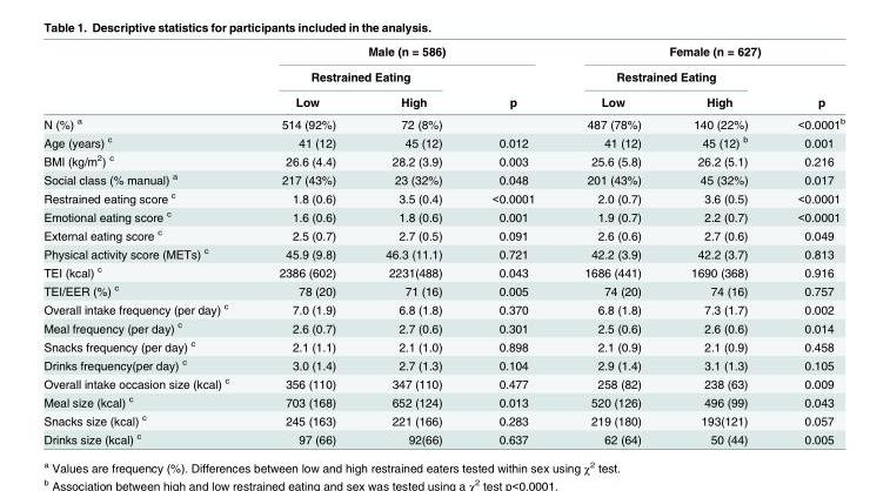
<table><thead><tr><td rowspan="3"></td><td colspan="3">Male (n = 586)</td><td colspan="3">Female (n = 627)</td></tr><tr><td colspan="2">Restrained Eating</td><td rowspan="2">p</td><td colspan="2">Restrained Eating</td><td rowspan="2">p</td></tr><tr><td>Low</td><td>High</td><td>Low</td><td>High</td></tr></thead><tbody><tr><td>N (%) <sup>a</sup></td><td>514 (92%)</td><td>72 (8%)</td><td></td><td>487 (78%)</td><td>140 (22%)</td><td>&lt;0.0001<sup>b</sup></td></tr><tr><td>Age (years) <sup>c</sup></td><td>41 (12)</td><td>45 (12)</td><td>0.012</td><td>41 (12)</td><td>45 (12) <sup>b</sup></td><td>0.001</td></tr><tr><td>BMI (kg/m<sup>2</sup>) <sup>c</sup></td><td>26.6 (4.4)</td><td>28.2 (3.9)</td><td>0.003</td><td>25.6 (5.8)</td><td>26.2 (5.1)</td><td>0.216</td></tr><tr><td>Social class (% manual) <sup>a</sup></td><td>217 (43%)</td><td>23 (32%)</td><td>0.048</td><td>201 (43%)</td><td>45 (32%)</td><td>0.017</td></tr><tr><td>Restrained eating score <sup>c</sup></td><td>1.8 (0.6)</td><td>3.5 (0.4)</td><td>&lt;0.0001</td><td>2.0 (0.7)</td><td>3.6 (0.5)</td><td>&lt;0.0001</td></tr><tr><td>Emotional eating score <sup>c</sup></td><td>1.6 (0.6)</td><td>1.8 (0.6)</td><td>0.001</td><td>1.9 (0.7)</td><td>2.2 (0.7)</td><td>&lt;0.0001</td></tr><tr><td>External eating score <sup>c</sup></td><td>2.5 (0.7)</td><td>2.7 (0.5)</td><td>0.091</td><td>2.6 (0.6)</td><td>2.7 (0.6)</td><td>0.049</td></tr><tr><td>Physical activity score (METs) <sup>c</sup></td><td>45.9 (9.8)</td><td>46.3 (11.1)</td><td>0.721</td><td>42.2 (3.9)</td><td>42.2 (3.7)</td><td>0.813</td></tr><tr><td>TEI (kcal) <sup>c</sup></td><td>2386 (602)</td><td>2231(488)</td><td>0.043</td><td>1686 (441)</td><td>1690 (368)</td><td>0.916</td></tr><tr><td>TEI/EER (%) <sup>c</sup></td><td>78 (20)</td><td>71 (16)</td><td>0.005</td><td>74 (20)</td><td>74 (16)</td><td>0.757</td></tr><tr><td>Overall intake frequency (per day) <sup>c</sup></td><td>7.0 (1.9)</td><td>6.8 (1.8)</td><td>0.370</td><td>6.8 (1.8)</td><td>7.3 (1.7)</td><td>0.002</td></tr><tr><td>Meal frequency (per day) <sup>c</sup></td><td>2.6 (0.7)</td><td>2.7 (0.6)</td><td>0.301</td><td>2.5 (0.6)</td><td>2.6 (0.6)</td><td>0.014</td></tr><tr><td>Snacks frequency (per day) <sup>c</sup></td><td>2.1 (1.1)</td><td>2.1 (1.0)</td><td>0.898</td><td>2.1 (0.9)</td><td>2.1 (0.9)</td><td>0.458</td></tr><tr><td>Drinks frequency(per day) <sup>c</sup></td><td>3.0 (1.4)</td><td>2.7 (1.3)</td><td>0.104</td><td>2.9 (1.4)</td><td>3.1 (1.3)</td><td>0.105</td></tr><tr><td>Overall intake occasion size (kcal) <sup>c</sup></td><td>356 (110)</td><td>347 (110)</td><td>0.477</td><td>258 (82)</td><td>238 (63)</td><td>0.009</td></tr><tr><td>Meal size (kcal) <sup>c</sup></td><td>703 (168)</td><td>652 (124)</td><td>0.013</td><td>520 (126)</td><td>496 (99)</td><td>0.043</td></tr><tr><td>Snacks size (kcal) <sup>c</sup></td><td>245 (163)</td><td>221 (166)</td><td>0.283</td><td>219 (180)</td><td>193(121)</td><td>0.057</td></tr><tr><td>Drinks size (kcal) <sup>c</sup></td><td>97 (66)</td><td>92(66)</td><td>0.637</td><td>62 (64)</td><td>50 (44)</td><td>0.005</td></tr></tbody></table>